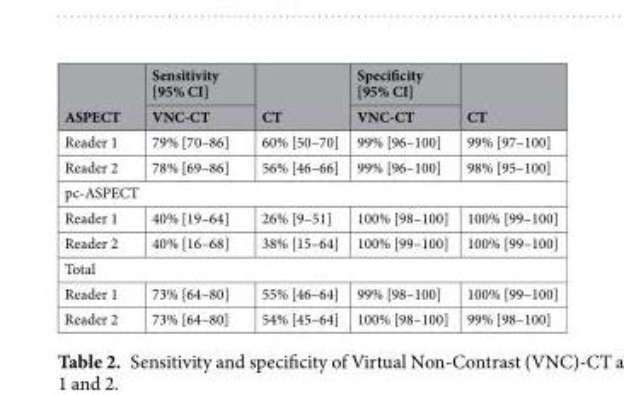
<table><thead><tr><td rowspan="2">ASPECT</td><td rowspan="2">Sensitivity [95% CI] VNC-CT</td><td rowspan="2">CT</td><td rowspan="2">Specificity [95% CI] VNC-CT</td><td rowspan="2">CT</td></tr><tr></tr></thead><tbody><tr><td>Reader 1</td><td>79% [70–86]</td><td>60% [50–70]</td><td>99% [96–100]</td><td>99% [97–100]</td></tr><tr><td>Reader 2</td><td>78% [69–86]</td><td>56% [46–66]</td><td>99% [96–100]</td><td>98% [95–100]</td></tr><tr><td colspan="5">pc-ASPECT</td></tr><tr><td>Reader 1</td><td>40% [19–64]</td><td>26% [9–51]</td><td>100% [98–100]</td><td>100% [99–100]</td></tr><tr><td>Reader 2</td><td>40% [16–68]</td><td>38% [15–64]</td><td>100% [99–100]</td><td>100% [99–100]</td></tr><tr><td colspan="5">Total</td></tr><tr><td>Reader 1</td><td>73% [64–80]</td><td>55% [46–64]</td><td>99% [98–100]</td><td>100% [99–100]</td></tr><tr><td>Reader 2</td><td>73% [64–80]</td><td>54% [45–64]</td><td>100% [98–100]</td><td>99% [98–100]</td></tr></tbody></table>